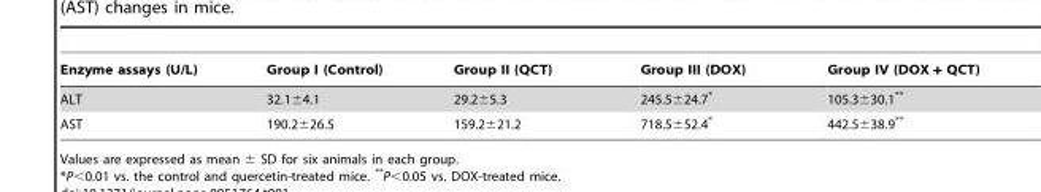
<table><thead><tr><td>Enzyme assays (U/L)</td><td>Group I (Control)</td><td>Group II (QCT)</td><td>Group III (DOX)</td><td>Group IV (DOX + QCT)</td></tr></thead><tbody><tr><td>ALT</td><td>32.1±4.1</td><td>29.2±5.3</td><td>245.5±24.7*</td><td>105.3±30.1**</td></tr><tr><td>AST</td><td>190.2±26.5</td><td>159.2±21.2</td><td>718.5±52.4*</td><td>442.5±38.9**</td></tr></tbody></table>